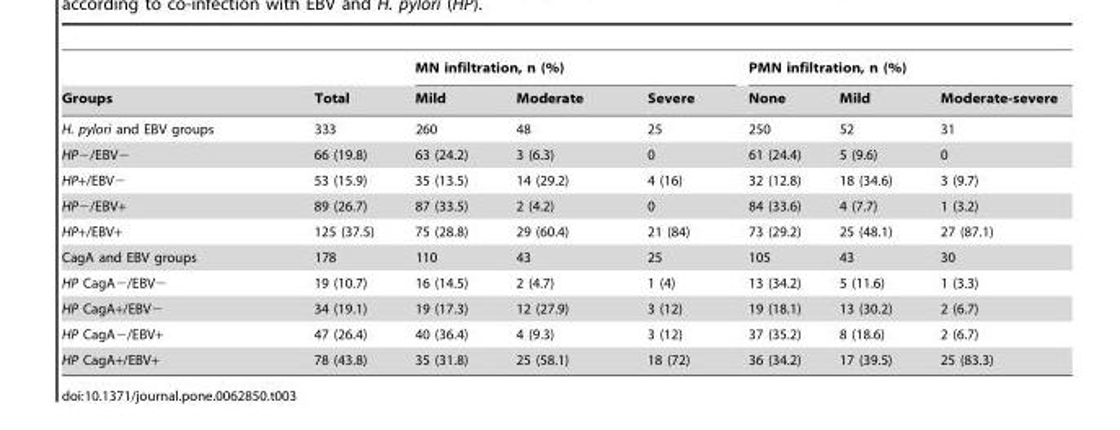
<table><thead><tr><td rowspan="2">Groups</td><td rowspan="2">Total</td><td colspan="3">MN infiltration, n (%)</td><td colspan="3">PMN infiltration, n (%)</td></tr><tr><td>Mild</td><td>Moderate</td><td>Severe</td><td>None</td><td>Mild</td><td>Moderate-severe</td></tr></thead><tbody><tr><td>H. pylori and EBV groups</td><td>333</td><td>260</td><td>48</td><td>25</td><td>250</td><td>52</td><td>31</td></tr><tr><td>HP−/EBV−</td><td>66 (19.8)</td><td>63 (24.2)</td><td>3 (6.3)</td><td>0</td><td>61 (24.4)</td><td>5 (9.6)</td><td>0</td></tr><tr><td>HP+/EBV−</td><td>53 (15.9)</td><td>35 (13.5)</td><td>14 (29.2)</td><td>4 (16)</td><td>32 (12.8)</td><td>18 (34.6)</td><td>3 (9.7)</td></tr><tr><td>HP−/EBV+</td><td>89 (26.7)</td><td>87 (33.5)</td><td>2 (4.2)</td><td>0</td><td>84 (33.6)</td><td>4 (7.7)</td><td>1 (3.2)</td></tr><tr><td>HP+/EBV+</td><td>125 (37.5)</td><td>75 (28.8)</td><td>29 (60.4)</td><td>21 (84)</td><td>73 (29.2)</td><td>25 (48.1)</td><td>27 (87.1)</td></tr><tr><td>CagA and EBV groups</td><td>178</td><td>110</td><td>43</td><td>25</td><td>105</td><td>43</td><td>30</td></tr><tr><td>HP CagA−/EBV−</td><td>19 (10.7)</td><td>16 (14.5)</td><td>2 (4.7)</td><td>1 (4)</td><td>13 (34.2)</td><td>5 (11.6)</td><td>1 (3.3)</td></tr><tr><td>HP CagA+/EBV−</td><td>34 (19.1)</td><td>19 (17.3)</td><td>12 (27.9)</td><td>3 (12)</td><td>19 (18.1)</td><td>13 (30.2)</td><td>2 (6.7)</td></tr><tr><td>HP CagA−/EBV+</td><td>47 (26.4)</td><td>40 (36.4)</td><td>4 (9.3)</td><td>3 (12)</td><td>37 (35.2)</td><td>8 (18.6)</td><td>2 (6.7)</td></tr><tr><td>HP CagA+/EBV+</td><td>78 (43.8)</td><td>35 (31.8)</td><td>25 (58.1)</td><td>18 (72)</td><td>36 (34.2)</td><td>17 (39.5)</td><td>25 (83.3)</td></tr></tbody></table>